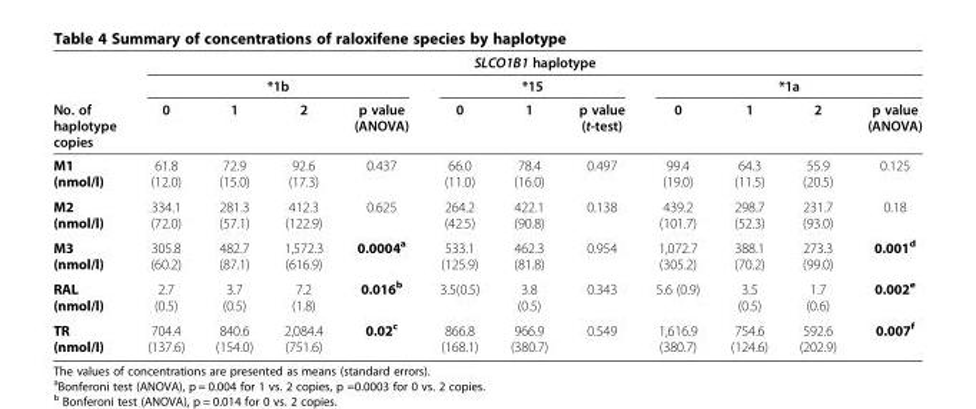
<table><thead><tr><td rowspan="3">No. of haplotype copies</td><td colspan="11">SLCO1B1 haplotype</td></tr><tr><td colspan="4">*1b</td><td colspan="3">*15</td><td colspan="4">*1a</td></tr><tr><td>0</td><td>1</td><td>2</td><td>p value (ANOVA)</td><td>0</td><td>1</td><td>p value (t-test)</td><td>0</td><td>1</td><td>2</td><td>p value (ANOVA)</td></tr></thead><tbody><tr><td>M1 (nmol/l)</td><td>61.8 (12.0)</td><td>72.9 (15.0)</td><td>92.6 (17.3)</td><td>0.437</td><td>66.0 (11.0)</td><td>78.4 (16.0)</td><td>0.497</td><td>99.4 (19.0)</td><td>64.3 (11.5)</td><td>55.9 (20.5)</td><td>0.125</td></tr><tr><td>M2 (nmol/l)</td><td>334.1 (72.0)</td><td>281.3 (57.1)</td><td>412.3 (122.9)</td><td>0.625</td><td>264.2 (42.5)</td><td>422.1 (90.8)</td><td>0.138</td><td>439.2 (101.7)</td><td>298.7 (52.3)</td><td>231.7 (93.0)</td><td>0.18</td></tr><tr><td>M3 (nmol/l)</td><td>305.8 (60.2)</td><td>482.7 (87.1)</td><td>1,572.3 (616.9)</td><td>0.0004<sup>a</sup></td><td>533.1 (125.9)</td><td>462.3 (81.8)</td><td>0.954</td><td>1,072.7 (305.2)</td><td>388.1 (70.2)</td><td>273.3 (99.0)</td><td>0.001<sup>d</sup></td></tr><tr><td>RAL (nmol/l)</td><td>2.7 (0.5)</td><td>3.7 (0.5)</td><td>7.2 (1.8)</td><td>0.016<sup>b</sup></td><td>3.5(0.5)</td><td>3.8 (0.5)</td><td>0.343</td><td>5.6 (0.9)</td><td>3.5 (0.5)</td><td>1.7 (0.6)</td><td>0.002<sup>e</sup></td></tr><tr><td>TR (nmol/I)</td><td>704.4 (137.6)</td><td>840.6 (154.0)</td><td>2,084.4 (751.6)</td><td>0.02<sup>c</sup></td><td>866.8 (168.1)</td><td>966.9 (380.7)</td><td>0.549</td><td>1,616.9 (380.7)</td><td>754.6 (124.6)</td><td>592.6 (202.9)</td><td>0.007<sup>f</sup></td></tr></tbody></table>